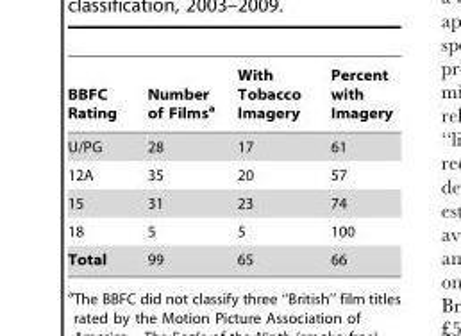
<table><thead><tr><td>BBFC Rating</td><td>Number of Films<sup>a</sup></td><td>With Tobacco Imagery</td><td>Percent with Imagery</td></tr></thead><tbody><tr><td>U/PG</td><td>28</td><td>17</td><td>61</td></tr><tr><td>12A</td><td>35</td><td>20</td><td>57</td></tr><tr><td>15</td><td>31</td><td>23</td><td>74</td></tr><tr><td>18</td><td>5</td><td>5</td><td>100</td></tr><tr><td>Total</td><td>99</td><td>65</td><td>66</td></tr></tbody></table>